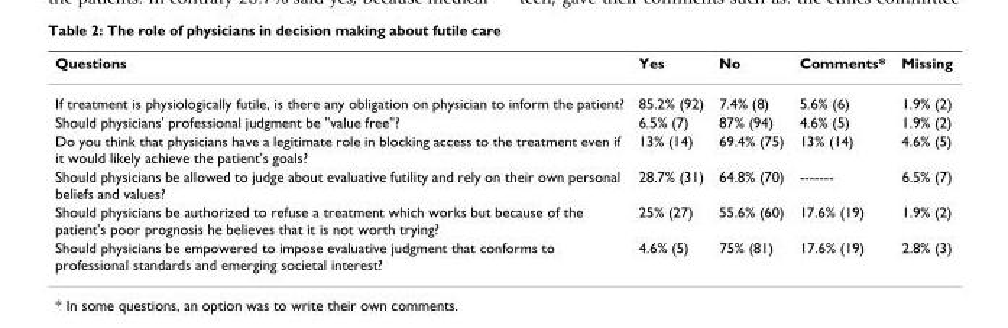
<table><thead><tr><td>Questions</td><td>Yes</td><td>No</td><td>Comments*</td><td>Missing</td></tr></thead><tbody><tr><td>If treatment is physiologically futile, is there any obligation on physician to inform the patient?</td><td>85.2% (92)</td><td>7.4% (8)</td><td>5.6% (6)</td><td>1.9% (2)</td></tr><tr><td>Should physicians&#x27; professional judgment be &quot;value free&quot;?</td><td>6.5% (7)</td><td>87% (94)</td><td>4.6% (5)</td><td>1.9% (2)</td></tr><tr><td>Do you think that physicians have a legitimate role in blocking access to the treatment even if it would likely achieve the patient&#x27;s goals?</td><td>13% (14)</td><td>69.4% (75)</td><td>13% (14)</td><td>4.6% (5)</td></tr><tr><td>Should physicians be allowed to judge about evaluative futility and rely on their own personal beliefs and values?</td><td>28.7% (31)</td><td>64.8% (70)</td><td>-------</td><td>6.5% (7)</td></tr><tr><td>Should physicians be authorized to refuse a treatment which works but because of the patient&#x27;s poor prognosis he believes that it is not worth trying?</td><td>25% (27)</td><td>55.6% (60)</td><td>17.6% (19)</td><td>1.9% (2)</td></tr><tr><td>Should physicians be empowered to impose evaluative judgment that conforms to professional standards and emerging societal interest?</td><td>4.6% (5)</td><td>75% (81)</td><td>17.6% (19)</td><td>2.8% (3)</td></tr></tbody></table>